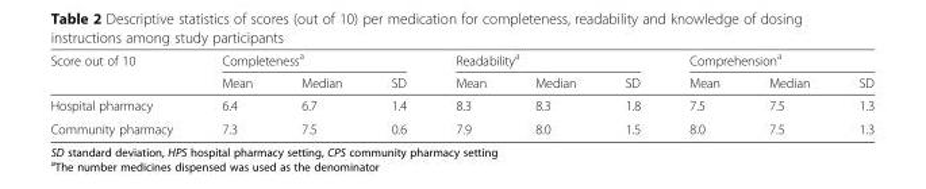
<table><thead><tr><td rowspan="2">Score out of 10</td><td colspan="3">Completeness<sup>a</sup></td><td colspan="3">Readability<sup>a</sup></td><td colspan="3">Comprehension<sup>a</sup></td></tr><tr><td>Mean</td><td>Median</td><td>SD</td><td>Mean</td><td>Median</td><td>SD</td><td>Mean</td><td>Median</td><td>SD</td></tr></thead><tbody><tr><td>Hospital pharmacy</td><td>6.4</td><td>6.7</td><td>1.4</td><td>8.3</td><td>8.3</td><td>1.8</td><td>7.5</td><td>7.5</td><td>1.3</td></tr><tr><td>Community pharmacy</td><td>7.3</td><td>7.5</td><td>0.6</td><td>7.9</td><td>8.0</td><td>1.5</td><td>8.0</td><td>7.5</td><td>1.3</td></tr></tbody></table>